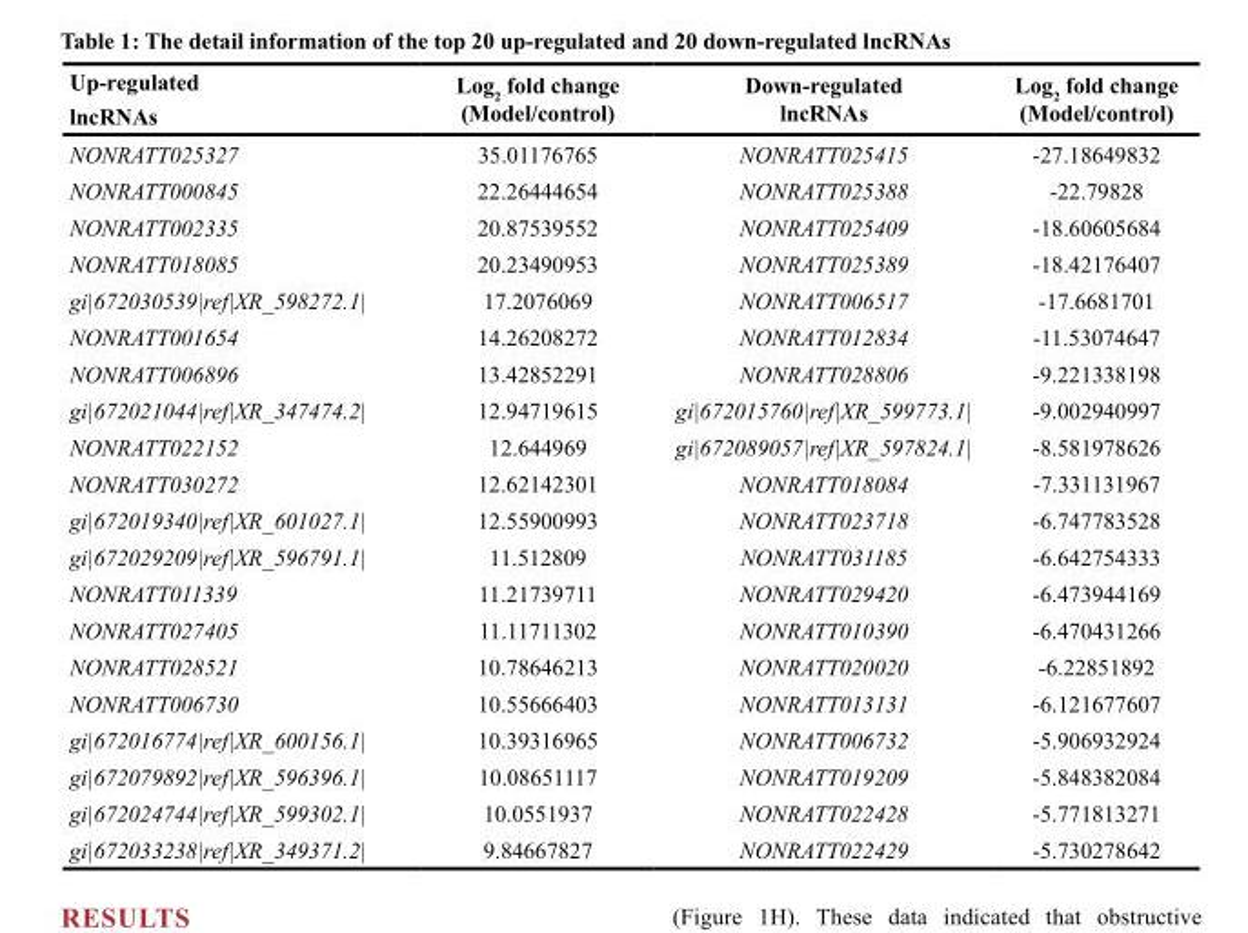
<table><thead><tr><td>Up-regulated lncRNAs</td><td>Log<sub>2</sub> fold change (Model/control)</td><td>Down-regulated lncRNAs</td><td>Log<sub>2</sub> fold change (Model/control)</td></tr></thead><tbody><tr><td>NONRATT025327</td><td>35.01176765</td><td>NONRATT025415</td><td>-27.18649832</td></tr><tr><td>NONRATT000845</td><td>22.26444654</td><td>NONRATT025388</td><td>-22.79828</td></tr><tr><td>NONRATT002335</td><td>20.87539552</td><td>NONRATT025409</td><td>-18.60605684</td></tr><tr><td>NONRATT018085</td><td>20.23490953</td><td>NONRATT025389</td><td>-18.42176407</td></tr><tr><td>gi|672030539|ref|XR_598272.1|</td><td>17.2076069</td><td>NONRATT006517</td><td>-17.6681701</td></tr><tr><td>NONRATT001654</td><td>14.26208272</td><td>NONRATT012834</td><td>-11.53074647</td></tr><tr><td>NONRATT006896</td><td>13.42852291</td><td>NONRATT028806</td><td>-9.221338198</td></tr><tr><td>gi|672021044|ref|XR_347474.2|</td><td>12.94719615</td><td>gi|672015760|ref|XR_599773.1|</td><td>-9.002940997</td></tr><tr><td>NONRATT022152</td><td>12.644969</td><td>gi|672089057|ref|XR_597824.1|</td><td>-8.581978626</td></tr><tr><td>NONRATT030272</td><td>12.62142301</td><td>NONRATT018084</td><td>-7.331131967</td></tr><tr><td>gi|672019340|ref|XR_601027.1|</td><td>12.55900993</td><td>NONRATT023718</td><td>-6.747783528</td></tr><tr><td>gi|672029209|ref|XR_596791.1|</td><td>11.512809</td><td>NONRATT031185</td><td>-6.642754333</td></tr><tr><td>NONRATT011339</td><td>11.21739711</td><td>NONRATT029420</td><td>-6.473944169</td></tr><tr><td>NONRATT027405</td><td>11.11711302</td><td>NONRATT010390</td><td>-6.470431266</td></tr><tr><td>NONRATT028521</td><td>10.78646213</td><td>NONRATT020020</td><td>-6.22851892</td></tr><tr><td>NONRATT006730</td><td>10.55666403</td><td>NONRATT013131</td><td>-6.121677607</td></tr><tr><td>gi|672016774|ref|XR_600156.1|</td><td>10.39316965</td><td>NONRATT006732</td><td>-5.906932924</td></tr><tr><td>gi|672079892|ref|XR_596396.1|</td><td>10.08651117</td><td>NONRATT019209</td><td>-5.848382084</td></tr><tr><td>gi|672024744|ref|XR_599302.1|</td><td>10.0551937</td><td>NONRATT022428</td><td>-5.771813271</td></tr><tr><td>gi|672033238|ref|XR_349371.2|</td><td>9.84667827</td><td>NONRATT022429</td><td>-5.730278642</td></tr></tbody></table>